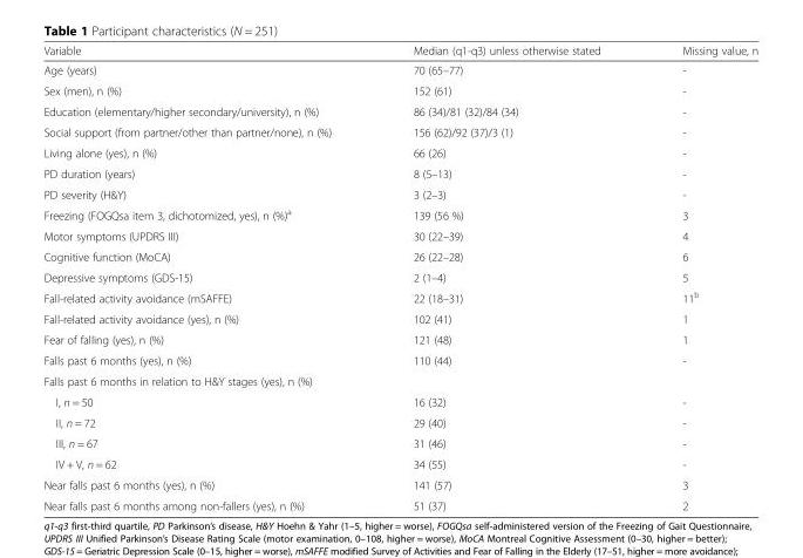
<table><thead><tr><td>Variable</td><td>Median (q1-q3) unless otherwise stated</td><td>Missing value, n</td></tr></thead><tbody><tr><td>Age (years)</td><td>70 (65–77)</td><td>-</td></tr><tr><td>Sex (men), n (%)</td><td>152 (61)</td><td>-</td></tr><tr><td>Education (elementary/higher secondary/university), n (%)</td><td>86 (34)/81 (32)/84 (34)</td><td>-</td></tr><tr><td>Social support (from partner/other than partner/none), n (%)</td><td>156 (62)/92 (37)/3 (1)</td><td>-</td></tr><tr><td>Living alone (yes), n (%)</td><td>66 (26)</td><td>-</td></tr><tr><td>PD duration (years)</td><td>8 (5–13)</td><td>-</td></tr><tr><td>PD severity (H&amp;Y)</td><td>3 (2–3)</td><td>-</td></tr><tr><td>Freezing (FOGQsa item 3, dichotomized, yes), n (%)<sup>a</sup></td><td>139 (56 %)</td><td>3</td></tr><tr><td>Motor symptoms (UPDRS III)</td><td>30 (22–39)</td><td>4</td></tr><tr><td>Cognitive function (MoCA)</td><td>26 (22–28)</td><td>6</td></tr><tr><td>Depressive symptoms (GDS-15)</td><td>2 (1–4)</td><td>5</td></tr><tr><td>Fall-related activity avoidance (mSAFFE)</td><td>22 (18–31)</td><td>11<sup>b</sup></td></tr><tr><td>Fall-related activity avoidance (yes), n (%)</td><td>102 (41)</td><td>1</td></tr><tr><td>Fear of falling (yes), n (%)</td><td>121 (48)</td><td>1</td></tr><tr><td>Falls past 6 months (yes), n (%)</td><td>110 (44)</td><td>-</td></tr><tr><td colspan="3">Falls past 6 months in relation to H&amp;Y stages (yes), n (%)</td></tr><tr><td>I, n = 50</td><td>16 (32)</td><td>-</td></tr><tr><td>II, n = 72</td><td>29 (40)</td><td>-</td></tr><tr><td>III, n = 67</td><td>31 (46)</td><td>-</td></tr><tr><td>IV + V, n = 62</td><td>34 (55)</td><td>-</td></tr><tr><td>Near falls past 6 months (yes), n (%)</td><td>141 (57)</td><td>3</td></tr><tr><td>Near falls past 6 months among non-fallers (yes), n (%)</td><td>51 (37)</td><td>2</td></tr></tbody></table>